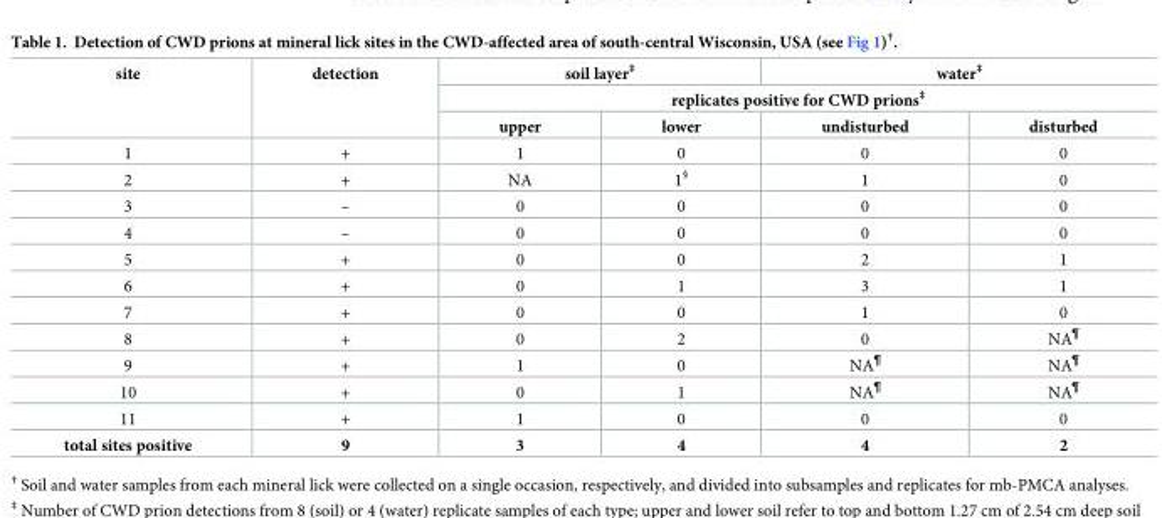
<table><thead><tr><td rowspan="3">site</td><td rowspan="3">detection</td><td colspan="2">soil layer<sup>‡</sup></td><td colspan="2">water<sup>‡</sup></td></tr><tr><td colspan="4">replicates positive for CWD prions<sup>‡</sup></td></tr><tr><td>upper</td><td>lower</td><td>undisturbed</td><td>disturbed</td></tr></thead><tbody><tr><td>1</td><td>+</td><td>1</td><td>0</td><td>0</td><td>0</td></tr><tr><td>2</td><td>+</td><td>NA</td><td>1<sup>§</sup></td><td>1</td><td>0</td></tr><tr><td>3</td><td>–</td><td>0</td><td>0</td><td>0</td><td>0</td></tr><tr><td>4</td><td>–</td><td>0</td><td>0</td><td>0</td><td>0</td></tr><tr><td>5</td><td>+</td><td>0</td><td>0</td><td>2</td><td>1</td></tr><tr><td>6</td><td>+</td><td>0</td><td>1</td><td>3</td><td>1</td></tr><tr><td>7</td><td>+</td><td>0</td><td>0</td><td>1</td><td>0</td></tr><tr><td>8</td><td>+</td><td>0</td><td>2</td><td>0</td><td>NA<sup>¶</sup></td></tr><tr><td>9</td><td>+</td><td>1</td><td>0</td><td>NA<sup>¶</sup></td><td>NA<sup>¶</sup></td></tr><tr><td>10</td><td>+</td><td>0</td><td>1</td><td>NA<sup>¶</sup></td><td>NA<sup>¶</sup></td></tr><tr><td>11</td><td>+</td><td>1</td><td>0</td><td>0</td><td>0</td></tr><tr><td>total sites positive</td><td>9</td><td>3</td><td>4</td><td>4</td><td>2</td></tr></tbody></table>